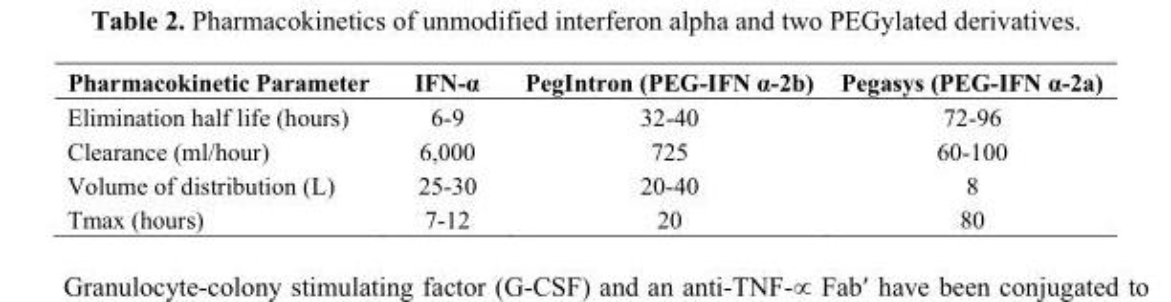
<table><thead><tr><td>Pharmacokinetic Parameter</td><td>IFN-α</td><td>PegIntron (PEG-IFN α-2b)</td><td>Pegasys (PEG-IFN α-2a)</td></tr></thead><tbody><tr><td>Elimination half life (hours)</td><td>6-9</td><td>32-40</td><td>72-96</td></tr><tr><td>Clearance (ml/hour)</td><td>6,000</td><td>725</td><td>60-100</td></tr><tr><td>Volume of distribution (L)</td><td>25-30</td><td>20-40</td><td>8</td></tr><tr><td>Tmax (hours)</td><td>7-12</td><td>20</td><td>80</td></tr></tbody></table>